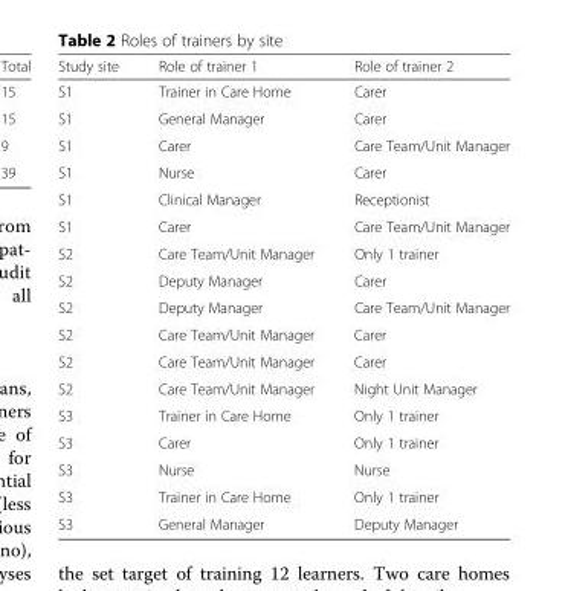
<table><thead><tr><td>Study site</td><td>Role of trainer 1</td><td>Role of trainer 2</td></tr></thead><tbody><tr><td>S1</td><td>Trainer in Care Home</td><td>Carer</td></tr><tr><td>S1</td><td>General Manager</td><td>Carer</td></tr><tr><td>S1</td><td>Carer</td><td>Care Team/Unit Manager</td></tr><tr><td>S1</td><td>Nurse</td><td>Carer</td></tr><tr><td>S1</td><td>Clinical Manager</td><td>Receptionist</td></tr><tr><td>S1</td><td>Carer</td><td>Care Team/Unit Manager</td></tr><tr><td>S2</td><td>Care Team/Unit Manager</td><td>Only 1 trainer</td></tr><tr><td>S2</td><td>Deputy Manager</td><td>Carer</td></tr><tr><td>S2</td><td>Deputy Manager</td><td>Care Team/Unit Manager</td></tr><tr><td>S2</td><td>Care Team/Unit Manager</td><td>Carer</td></tr><tr><td>S2</td><td>Care Team/Unit Manager</td><td>Carer</td></tr><tr><td>S2</td><td>Care Team/Unit Manager</td><td>Night Unit Manager</td></tr><tr><td>S3</td><td>Trainer in Care Home</td><td>Only 1 trainer</td></tr><tr><td>S3</td><td>Carer</td><td>Only 1 trainer</td></tr><tr><td>S3</td><td>Nurse</td><td>Nurse</td></tr><tr><td>S3</td><td>Trainer in Care Home</td><td>Only 1 trainer</td></tr><tr><td>S3</td><td>General Manager</td><td>Deputy Manager</td></tr></tbody></table>